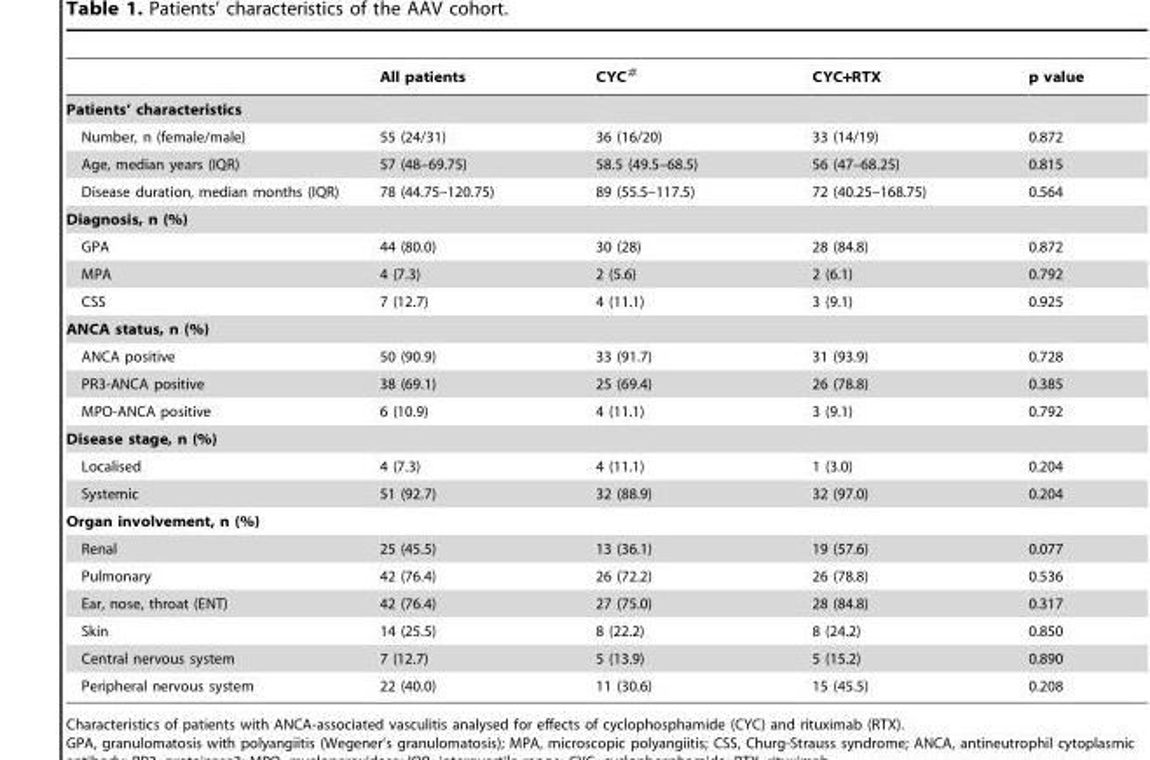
<table><thead><tr><td></td><td>All patients</td><td>CYC#</td><td>CYC+RTX</td><td>p value</td></tr></thead><tbody><tr><td colspan="5">Patients’ characteristics</td></tr><tr><td>Number, n (female/male)</td><td>55 (24/31)</td><td>36 (16/20)</td><td>33 (14/19)</td><td>0.872</td></tr><tr><td>Age, median years (IQR)</td><td>57 (48–69.75)</td><td>58.5 (49.5–68.5)</td><td>56 (47–68.25)</td><td>0.815</td></tr><tr><td>Disease duration, median months (IQR)</td><td>78 (44.75–120.75)</td><td>89 (55.5–117.5)</td><td>72 (40.25–168.75)</td><td>0.564</td></tr><tr><td colspan="5">Diagnosis, n (%)</td></tr><tr><td>GPA</td><td>44 (80.0)</td><td>30 (28)</td><td>28 (84.8)</td><td>0.872</td></tr><tr><td>MPA</td><td>4 (7.3)</td><td>2 (5.6)</td><td>2 (6.1)</td><td>0.792</td></tr><tr><td>CSS</td><td>7 (12.7)</td><td>4 (11.1)</td><td>3 (9.1)</td><td>0.925</td></tr><tr><td colspan="5">ANCA status, n (%)</td></tr><tr><td>ANCA positive</td><td>50 (90.9)</td><td>33 (91.7)</td><td>31 (93.9)</td><td>0.728</td></tr><tr><td>PR3-ANCA positive</td><td>38 (69.1)</td><td>25 (69.4)</td><td>26 (78.8)</td><td>0.385</td></tr><tr><td>MPO-ANCA positive</td><td>6 (10.9)</td><td>4 (11.1)</td><td>3 (9.1)</td><td>0.792</td></tr><tr><td colspan="5">Disease stage, n (%)</td></tr><tr><td>Localised</td><td>4 (7.3)</td><td>4 (11.1)</td><td>1 (3.0)</td><td>0.204</td></tr><tr><td>Systemic</td><td>51 (92.7)</td><td>32 (88.9)</td><td>32 (97.0)</td><td>0.204</td></tr><tr><td colspan="5">Organ involvement, n (%)</td></tr><tr><td>Renal</td><td>25 (45.5)</td><td>13 (36.1)</td><td>19 (57.6)</td><td>0.077</td></tr><tr><td>Pulmonary</td><td>42 (76.4)</td><td>26 (72.2)</td><td>26 (78.8)</td><td>0.536</td></tr><tr><td>Ear, nose, throat (ENT)</td><td>42 (76.4)</td><td>27 (75.0)</td><td>28 (84.8)</td><td>0.317</td></tr><tr><td>Skin</td><td>14 (25.5)</td><td>8 (22.2)</td><td>8 (24.2)</td><td>0.850</td></tr><tr><td>Central nervous system</td><td>7 (12.7)</td><td>5 (13.9)</td><td>5 (15.2)</td><td>0.890</td></tr><tr><td>Peripheral nervous system</td><td>22 (40.0)</td><td>11 (30.6)</td><td>15 (45.5)</td><td>0.208</td></tr></tbody></table>